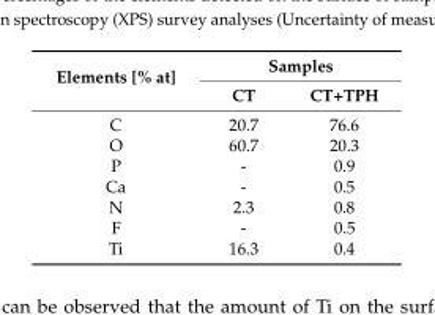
<table><thead><tr><td rowspan="2">Elements [% at]</td><td colspan="2">Samples</td></tr><tr><td>CT</td><td>CT+TPH</td></tr></thead><tbody><tr><td>C</td><td>20.7</td><td>76.6</td></tr><tr><td>O</td><td>60.7</td><td>20.3</td></tr><tr><td>P</td><td>-</td><td>0.9</td></tr><tr><td>Ca</td><td>-</td><td>0.5</td></tr><tr><td>N</td><td>2.3</td><td>0.8</td></tr><tr><td>F</td><td>-</td><td>0.5</td></tr><tr><td>Ti</td><td>16.3</td><td>0.4</td></tr></tbody></table>